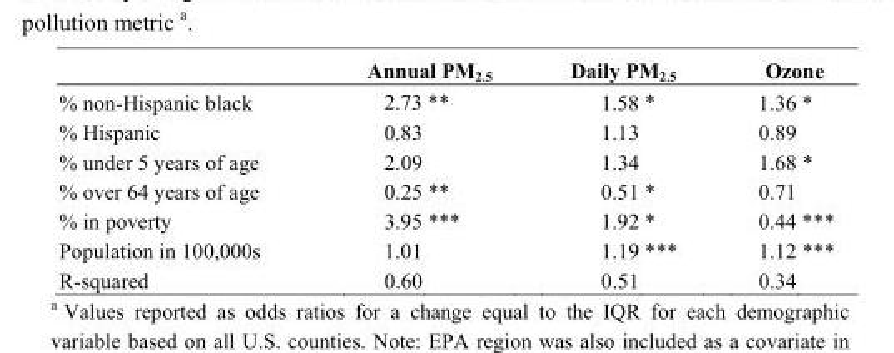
<table><thead><tr><td></td><td>Annual PM<sub>2.5</sub></td><td>Daily PM<sub>2.5</sub></td><td>Ozone</td></tr></thead><tbody><tr><td>% non-Hispanic black</td><td>2.73 **</td><td>1.58 *</td><td>1.36 *</td></tr><tr><td>% Hispanic</td><td>0.83</td><td>1.13</td><td>0.89</td></tr><tr><td>% under 5 years of age</td><td>2.09</td><td>1.34</td><td>1.68 *</td></tr><tr><td>% over 64 years of age</td><td>0.25 **</td><td>0.51 *</td><td>0.71</td></tr><tr><td>% in poverty</td><td>3.95 ***</td><td>1.92 *</td><td>0.44 ***</td></tr><tr><td>Population in 100,000s</td><td>1.01</td><td>1.19 ***</td><td>1.12 ***</td></tr><tr><td>R-squared</td><td>0.60</td><td>0.51</td><td>0.34</td></tr></tbody></table>